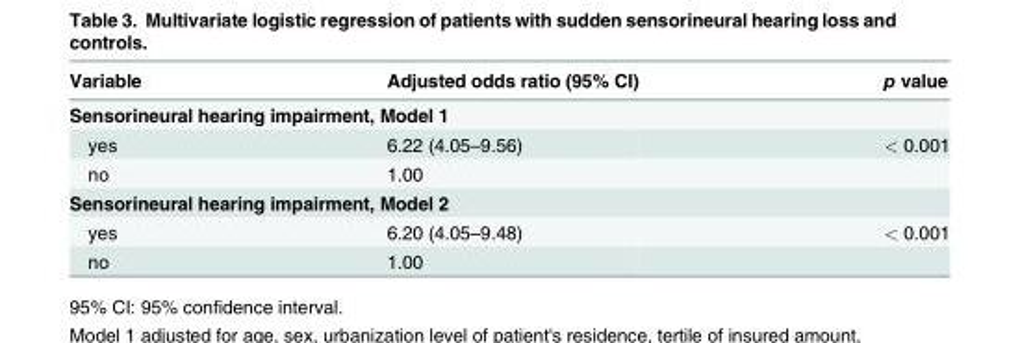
<table><thead><tr><td>Variable</td><td>Adjusted odds ratio (95% CI)</td><td>p value</td></tr></thead><tbody><tr><td colspan="3">Sensorineural hearing impairment, Model 1</td></tr><tr><td>yes</td><td>6.22 (4.05–9.56)</td><td>&lt; 0.001</td></tr><tr><td>no</td><td>1.00</td><td></td></tr><tr><td colspan="3">Sensorineural hearing impairment, Model 2</td></tr><tr><td>yes</td><td>6.20 (4.05–9.48)</td><td>&lt; 0.001</td></tr><tr><td>no</td><td>1.00</td><td></td></tr></tbody></table>